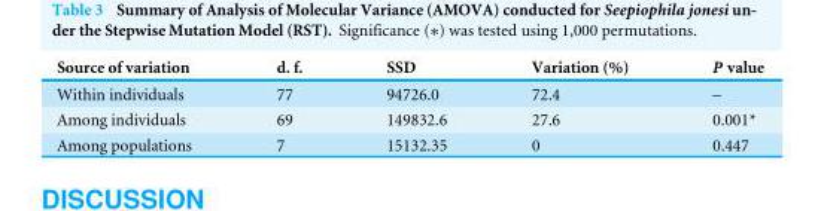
<table><thead><tr><td>Source of variation</td><td>d. f.</td><td>SSD</td><td>Variation (%)</td><td>P value</td></tr></thead><tbody><tr><td>Within individuals</td><td>77</td><td>94726.0</td><td>72.4</td><td>–</td></tr><tr><td>Among individuals</td><td>69</td><td>149832.6</td><td>27.6</td><td>0.001*</td></tr><tr><td>Among populations</td><td>7</td><td>15132.35</td><td>0</td><td>0.447</td></tr></tbody></table>